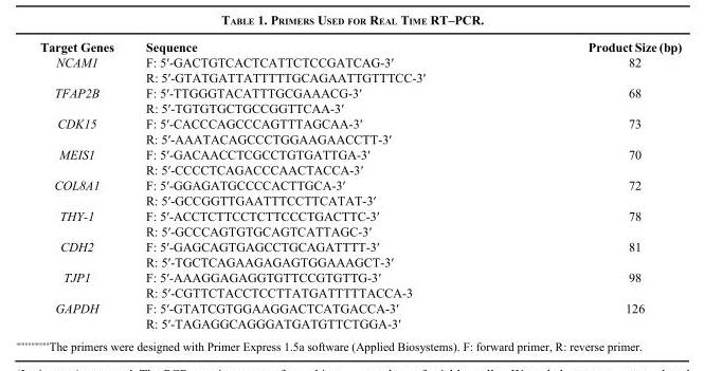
<table><thead><tr><td>Target Genes</td><td>Sequence</td><td>Product Size (bp)</td></tr></thead><tbody><tr><td rowspan="2">NCAM1</td><td>F: 5′-GACTGTCACTCATTCTCCGATCAG-3′</td><td>82</td></tr><tr><td>R: 5′-GTATGATTATTTTTGCAGAATTGTTTCC-3′</td><td></td></tr><tr><td rowspan="2">TFAP2B</td><td>F: 5′-TTGGGTACATTTGCGAAACG-3′</td><td>68</td></tr><tr><td>R: 5′-TGTGTGCTGCCGGTTCAA-3′</td><td></td></tr><tr><td rowspan="2">CDK15</td><td>F: 5′-CACCCAGCCCAGTTTAGCAA-3′</td><td>73</td></tr><tr><td>R: 5′-AAATACAGCCCTGGAAGAACCTT-3′</td><td></td></tr><tr><td rowspan="2">MEIS1</td><td>F: 5′-GACAACCTCGCCTGTGATTGA-3′</td><td>70</td></tr><tr><td>R: 5′-CCCCTCAGACCCAACTACCA-3′</td><td></td></tr><tr><td rowspan="2">COL8A1</td><td>F: 5′-GGAGATGCCCCACTTGCA-3′</td><td>72</td></tr><tr><td>R: 5′-GCCGGTTGAATTTCCTTCATAT-3′</td><td></td></tr><tr><td rowspan="2">THY-1</td><td>F: 5′-ACCTCTTCCTCTTCCCTGACTTC-3′</td><td>78</td></tr><tr><td>R: 5′-GCCCAGTGTGCAGTCATTAGC-3′</td><td></td></tr><tr><td rowspan="2">CDH2</td><td>F: 5′-GAGCAGTGAGCCTGCAGATTTT-3′</td><td>81</td></tr><tr><td>R: 5′-TGCTCAGAAGAGAGTGGAAAGCT-3′</td><td></td></tr><tr><td rowspan="2">TJP1</td><td>F: 5′-AAAGGAGAGGTGTTCCGTGTTG-3′</td><td>98</td></tr><tr><td>R: 5′-CGTTCTACCTCCTTATGATTTTTACCA-3</td><td></td></tr><tr><td rowspan="2">GAPDH</td><td>F: 5′-GTATCGTGGAAGGACTCATGACCA-3′</td><td>126</td></tr><tr><td>R: 5′-TAGAGGCAGGGATGATGTTCTGGA-3′</td><td></td></tr></tbody></table>